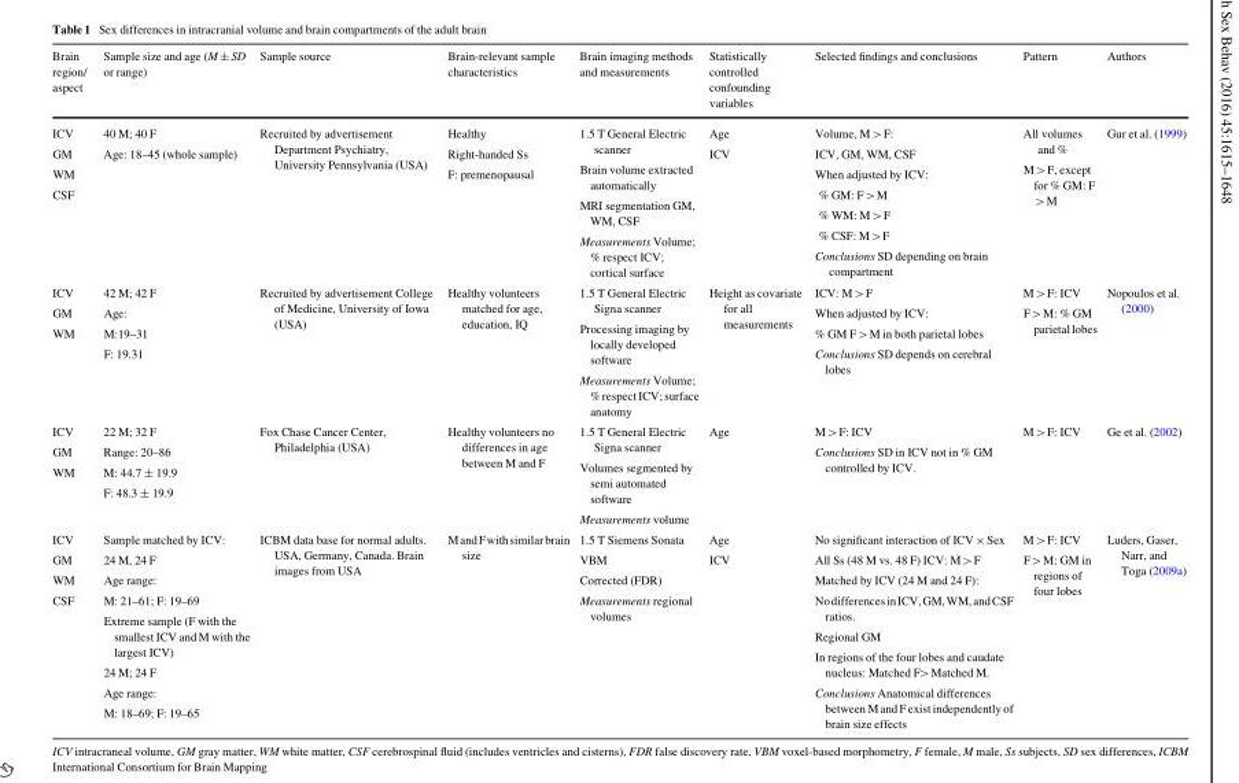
<table><thead><tr><td>Brain region/ aspect</td><td>Sample size and age (M ± SD or range)</td><td>Sample source</td><td>Brain-relevant sample characteristics</td><td>Brain imaging methods and measurements</td><td>Statistically controlled confounding variables</td><td>Selected findings and conclusions</td><td>Pattern</td><td>Authors</td></tr></thead><tbody><tr><td rowspan="5">ICV GM WM CSF</td><td rowspan="5">40 M; 40 F Age: 18–45 (whole sample)</td><td rowspan="5">Recruited by advertisement Department Psychiatry, University Pennsylvania (USA)</td><td rowspan="5">Healthy Right-handed Ss F: premenopausal</td><td rowspan="5">1.5 T General Electric scanner Brain volume extracted automatically MRI segmentation GM, WM, CSF Measurements Volume; % respect ICV; cortical surface</td><td rowspan="5">Age ICV</td><td>Volume, M&gt;F: ICV, GM, WM, CSF When adjusted by ICV:</td><td rowspan="5">All volumes and % M&gt;F, except for % GM: F &gt;M</td><td rowspan="5">Gur et al. (1999)</td></tr><tr><td>% GM: F&gt;M</td></tr><tr><td>% WM: M&gt;F</td></tr><tr><td>% CSF: M&gt;F</td></tr><tr><td>Conclusions SD depending on brain compartment</td></tr><tr><td>ICV GM WM</td><td>42 M; 42 F Age: M:19–31 F: 19.31</td><td>Recruited by advertisement College of Medicine, University of Iowa (USA)</td><td>Healthy volunteers matched for age, education, IQ</td><td>1.5 T General Electric Signa scanner Processing imaging by locally developed software Measurements Volume; % respect ICV; surface anatomy</td><td>Height as covariate for all measurements</td><td>ICV: M&gt;F When adjusted by ICV: % GM F&gt;M in both parietal lobes Conclusions SD depends on cerebral lobes</td><td>M&gt;F: ICV F&gt;M: % GM parietallobes</td><td>Nopoulos et al. (2000)</td></tr><tr><td>ICV GM WM</td><td>22 M; 32 F Range: 20–86 M: 44.7 ± 19.9 F: 48.3 ± 19.9</td><td>Fox Chase Cancer Center, Philadelphia (USA)</td><td>Healthy volunteers no differences in age between M and F</td><td>1.5 T General Electric Signa scanner Volumes segmented by semi automated software Measurements volume</td><td>Age</td><td>M&gt;F: ICV Conclusions SD in ICV not in % GM controlled by ICV.</td><td>M&gt;F: ICV</td><td>Ge et al. (2002)</td></tr><tr><td>ICV GM WM CSF</td><td>Sample matched by ICV: 24 M, 24 F Age range: M: 21–61; F: 19–69 Extreme sample (F with the smallest ICV and M with the largest ICV) 24 M; 24 F Age range: M: 18–69; F: 19–65</td><td>ICBM data base for normal adults. USA, Germany, Canada. Brain images from USA</td><td>MandFwithsimilarbrain size</td><td>1.5 T Siemens Sonata VBM Corrected (FDR) Measurements regional volumes</td><td>Age ICV</td><td>No significant interaction of ICV × Sex All Ss (48 M vs. 48 F) ICV: M&gt;F Matched by ICV (24 M and 24 F): NodifferencesinICV,GM,WM,andCSF ratios. Regional GM In regions of the four lobes and caudate nucleus: Matched F&gt;Matched M. Conclusions Anatomical differences between MandFexist independently of brain size effects</td><td>M&gt;F: ICV F&gt;M: GM in regions of four lobes</td><td>Luders, Gaser, Narr, and Toga (2009a)</td></tr></tbody></table>